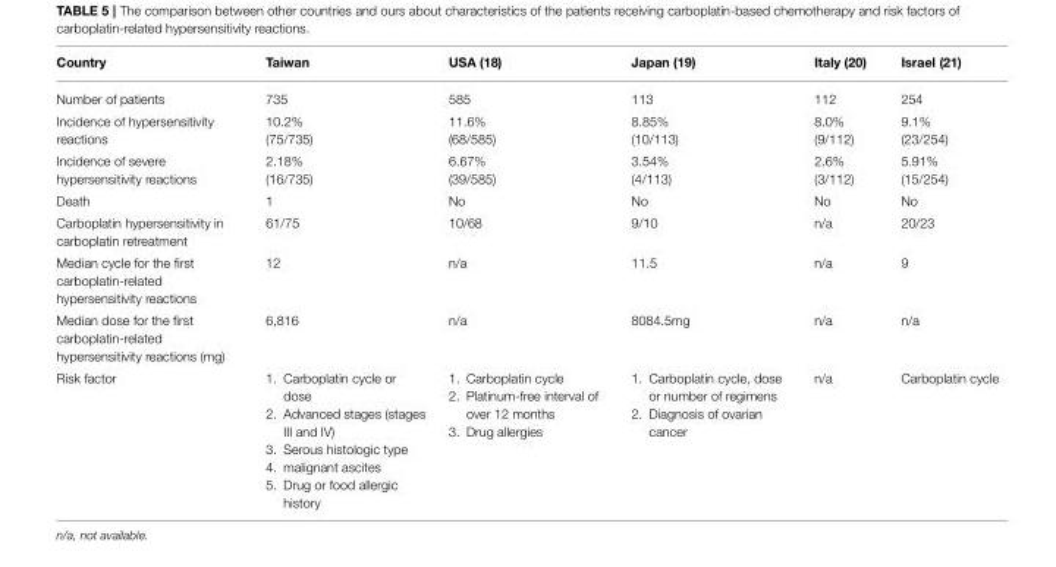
<table><thead><tr><td>Country</td><td>Taiwan</td><td>USA (18)</td><td>Japan (19)</td><td>Italy (20)</td><td>Israel (21)</td></tr></thead><tbody><tr><td>Number of patients</td><td>735</td><td>585</td><td>113</td><td>112</td><td>254</td></tr><tr><td>Incidence of hypersensitivity reactions</td><td>10.2% (75/735)</td><td>11.6% (68/585)</td><td>8.85% (10/113)</td><td>8.0% (9/112)</td><td>9.1% (23/254)</td></tr><tr><td>Incidence of severe hypersensitivity reactions</td><td>2.18% (16/735)</td><td>6.67% (39/585)</td><td>3.54% (4/113)</td><td>2.6% (3/112)</td><td>5.91% (15/254)</td></tr><tr><td>Death</td><td>1</td><td>No</td><td>No</td><td>No</td><td>No</td></tr><tr><td>Carboplatin hypersensitivity in carboplatin retreatment</td><td>61/75</td><td>10/68</td><td>9/10</td><td>n/a</td><td>20/23</td></tr><tr><td>Median cycle for the first carboplatin-related hypersensitivity reactions</td><td>12</td><td>n/a</td><td>11.5</td><td>n/a</td><td>9</td></tr><tr><td>Median dose for the first carboplatin-related hypersensitivity reactions (mg)</td><td>6,816</td><td>n/a</td><td>8084.5mg</td><td>n/a</td><td>n/a</td></tr><tr><td>Risk factor</td><td>1. Carboplatin cycle or dose 2. Advanced stages (stages III and IV) 3. Serous histologic type 4. malignant ascites 5. Drug or food allergic history</td><td>1. Carboplatin cycle 2. Platinum-free interval of over 12 months 3. Drug allergies</td><td>1. Carboplatin cycle, dose or number of regimens 2. Diagnosis of ovarian cancer</td><td>n/a</td><td>Carboplatin cycle</td></tr></tbody></table>